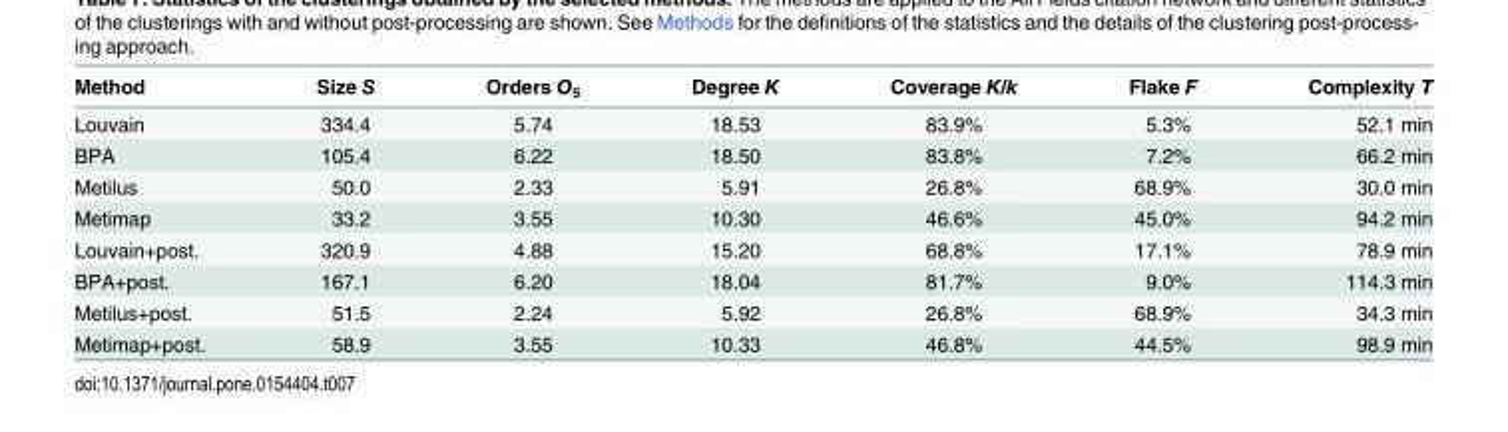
<table><thead><tr><td>Method</td><td>Size S</td><td>Orders O<sub>5</sub></td><td>Degree K</td><td>Coverage K/k</td><td>Flake F</td><td>Complexity T</td></tr></thead><tbody><tr><td>Louvain</td><td>334.4</td><td>5.74</td><td>18.53</td><td>83.9%</td><td>5.3%</td><td>52.1 min</td></tr><tr><td>BPA</td><td>105.4</td><td>6.22</td><td>18.50</td><td>83.8%</td><td>7.2%</td><td>66.2 min</td></tr><tr><td>Metilus</td><td>50.0</td><td>2.33</td><td>5.91</td><td>26.8%</td><td>68.9%</td><td>30.0 min</td></tr><tr><td>Metimap</td><td>33.2</td><td>3.55</td><td>10.30</td><td>46.6%</td><td>45.0%</td><td>94.2 min</td></tr><tr><td>Louvain+post.</td><td>320.9</td><td>4.88</td><td>15.20</td><td>68.8%</td><td>17.1%</td><td>78.9 min</td></tr><tr><td>BPA+post.</td><td>167.1</td><td>6.20</td><td>18.04</td><td>81.7%</td><td>9.0%</td><td>114.3 min</td></tr><tr><td>Metilus+post.</td><td>51.5</td><td>2.24</td><td>5.92</td><td>26.8%</td><td>68.9%</td><td>34.3 min</td></tr><tr><td>Metimap+post.</td><td>58.9</td><td>3.55</td><td>10.33</td><td>46.8%</td><td>44.5%</td><td>98.9 min</td></tr></tbody></table>